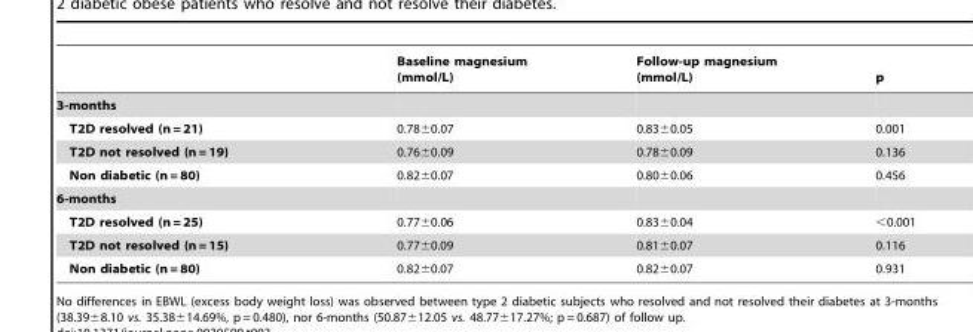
<table><thead><tr><td></td><td>Baseline magnesium (mmol/L)</td><td>Follow-up magnesium (mmol/L)</td><td>p</td></tr></thead><tbody><tr><td colspan="4">3-months</td></tr><tr><td>T2D resolved (n = 21)</td><td>0.78±0.07</td><td>0.83±0.05</td><td>0.001</td></tr><tr><td>T2D not resolved (n = 19)</td><td>0.76±0.09</td><td>0.78±0.09</td><td>0.136</td></tr><tr><td>Non diabetic (n = 80)</td><td>0.82±0.07</td><td>0.80±0.06</td><td>0.456</td></tr><tr><td colspan="4">6-months</td></tr><tr><td>T2D resolved (n = 25)</td><td>0.77±0.06</td><td>0.83±0.04</td><td>&lt;0.001</td></tr><tr><td>T2D not resolved (n = 15)</td><td>0.77±0.09</td><td>0.81±0.07</td><td>0.116</td></tr><tr><td>Non diabetic (n = 80)</td><td>0.82±0.07</td><td>0.82±0.07</td><td>0.931</td></tr></tbody></table>